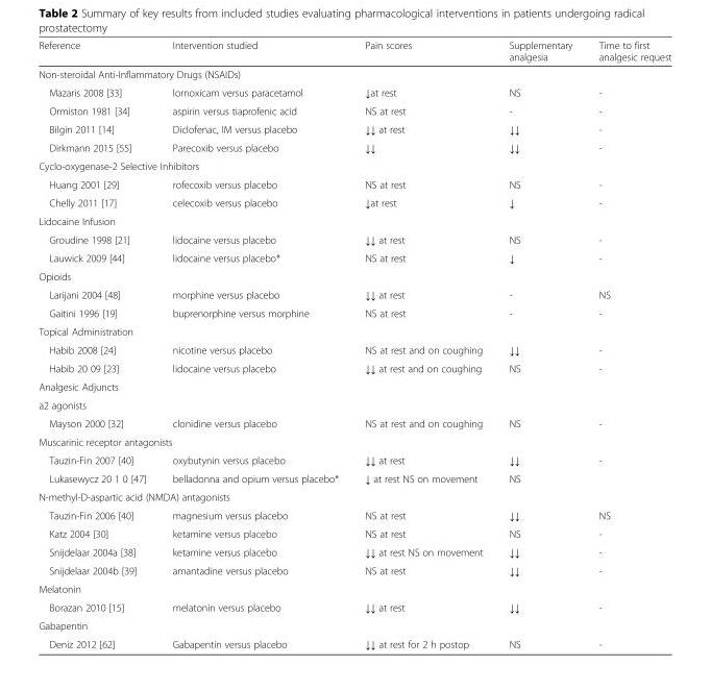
<table><thead><tr><td>Reference</td><td>Intervention studied</td><td>Pain scores</td><td>Supplementary analgesia</td><td>Time to first analgesic request</td></tr></thead><tbody><tr><td colspan="5">Non-steroidal Anti-Inflammatory Drugs (NSAIDs)</td></tr><tr><td>Mazaris 2008 [33]</td><td>lornoxicam versus paracetamol</td><td>↓at rest</td><td>NS</td><td>-</td></tr><tr><td>Ormiston 1981 [34]</td><td>aspirin versus tiaprofenic acid</td><td>NS at rest</td><td>-</td><td>-</td></tr><tr><td>Bilgin 2011 [14]</td><td>Diclofenac, IM versus placebo</td><td>↓↓ at rest</td><td>↓↓</td><td>-</td></tr><tr><td>Dirkmann 2015 [55]</td><td>Parecoxib versus placebo</td><td>↓↓</td><td>↓↓</td><td>-</td></tr><tr><td colspan="5">Cyclo-oxygenase-2 Selective Inhibitors</td></tr><tr><td>Huang 2001 [29]</td><td>rofecoxib versus placebo</td><td>NS at rest</td><td>NS</td><td>-</td></tr><tr><td>Chelly 2011 [17]</td><td>celecoxib versus placebo</td><td>↓at rest</td><td>↓</td><td>-</td></tr><tr><td colspan="5">Lidocaine Infusion</td></tr><tr><td>Groudine 1998 [21]</td><td>lidocaine versus placebo</td><td>↓↓ at rest</td><td>NS</td><td>-</td></tr><tr><td>Lauwick 2009 [44]</td><td>lidocaine versus placebo*</td><td>NS at rest</td><td>↓</td><td>-</td></tr><tr><td colspan="5">Opioids</td></tr><tr><td>Larijani 2004 [48]</td><td>morphine versus placebo</td><td>↓↓ at rest</td><td>-</td><td>NS</td></tr><tr><td>Gaitini 1996 [19]</td><td>buprenorphine versus morphine</td><td>NS at rest</td><td>-</td><td>-</td></tr><tr><td colspan="5">Topical Administration</td></tr><tr><td>Habib 2008 [24]</td><td>nicotine versus placebo</td><td>NS at rest and on coughing</td><td>↓↓</td><td>-</td></tr><tr><td>Habib 20 09 [23]</td><td>lidocaine versus placebo</td><td>↓↓ at rest and on coughing</td><td>NS</td><td>-</td></tr><tr><td colspan="5">Analgesic Adjuncts</td></tr><tr><td colspan="5">a2 agonists</td></tr><tr><td>Mayson 2000 [32]</td><td>clonidine versus placebo</td><td>NS at rest and on coughing</td><td>NS</td><td>-</td></tr><tr><td colspan="5">Muscarinic receptor antagonists</td></tr><tr><td>Tauzin-Fin 2007 [40]</td><td>oxybutynin versus placebo</td><td>↓↓ at rest</td><td>↓↓</td><td>-</td></tr><tr><td>Lukasewycz 20 1 0 [47]</td><td>belladonna and opium versus placebo*</td><td>↓ at rest NS on movement</td><td>NS</td><td></td></tr><tr><td colspan="5">N-methyl-D-aspartic acid (NMDA) antagonists</td></tr><tr><td>Tauzin-Fin 2006 [40]</td><td>magnesium versus placebo</td><td>NS at rest</td><td>↓↓</td><td>NS</td></tr><tr><td>Katz 2004 [30]</td><td>ketamine versus placebo</td><td>NS at rest</td><td>NS</td><td>-</td></tr><tr><td>Snijdelaar 2004a [38]</td><td>ketamine versus placebo</td><td>↓↓ at rest NS on movement</td><td>↓↓</td><td>-</td></tr><tr><td>Snijdelaar 2004b [39]</td><td>amantadine versus placebo</td><td>NS at rest</td><td>↓↓</td><td>-</td></tr><tr><td colspan="5">Melatonin</td></tr><tr><td>Borazan 2010 [15]</td><td>melatonin versus placebo</td><td>↓↓ at rest</td><td>↓↓</td><td>-</td></tr><tr><td colspan="5">Gabapentin</td></tr><tr><td>Deniz 2012 [62]</td><td>Gabapentin versus placebo</td><td>↓↓ at rest for 2 h postop</td><td>NS</td><td>-</td></tr></tbody></table>